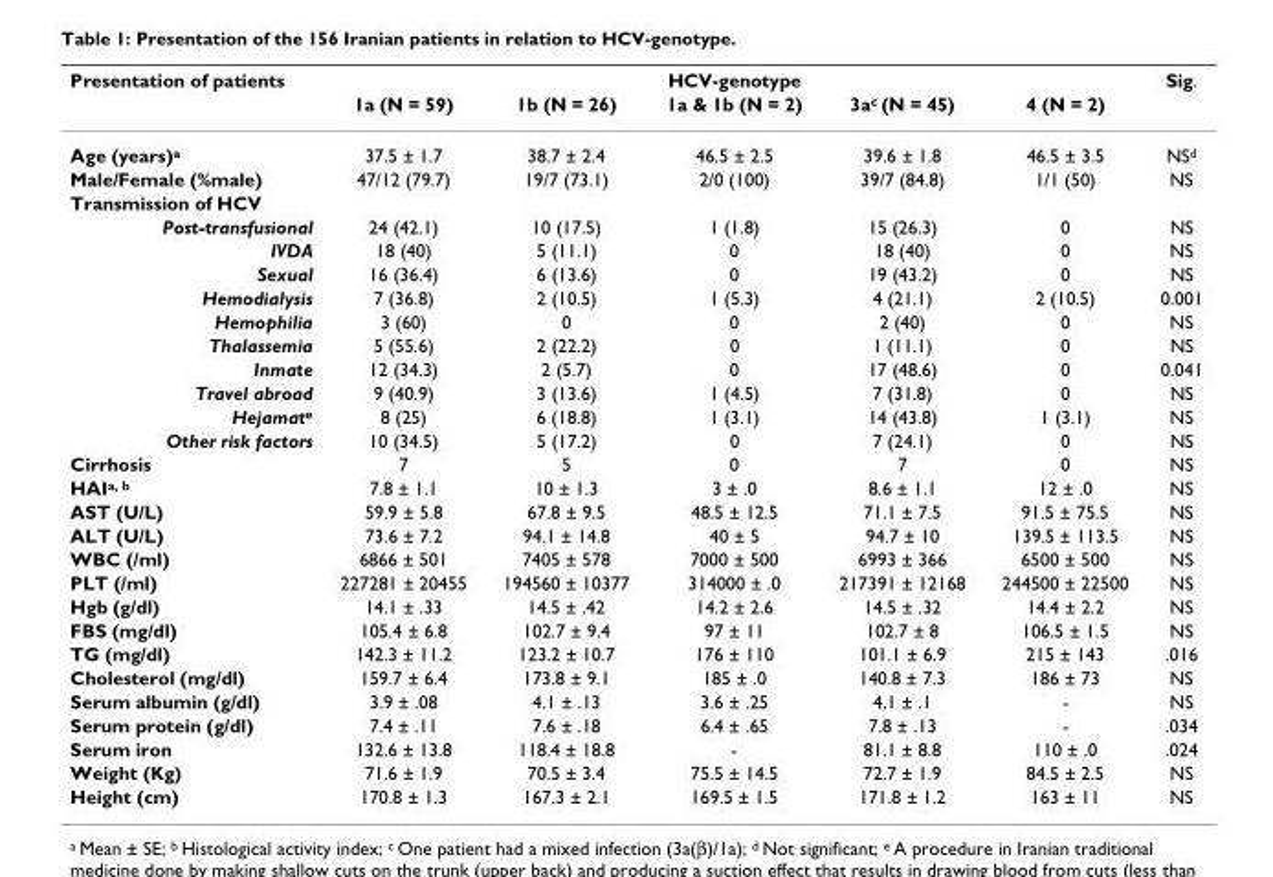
<table><thead><tr><td rowspan="2">Presentation of patients</td><td colspan="5">HCV-genotype</td><td rowspan="2">Sig.</td></tr><tr><td>1a (N = 59)</td><td>1b (N = 26)</td><td>1a &amp; 1b (N = 2)</td><td>3ac (N = 45)</td><td>4 (N = 2)</td></tr></thead><tbody><tr><td>Age (years)<sup>a</sup></td><td>37.5 ± 1.7</td><td>38.7 ± 2.4</td><td>46.5 ± 2.5</td><td>39.6 ± 1.8</td><td>46.5 ± 3.5</td><td>NS<sup>d</sup></td></tr><tr><td>Male/Female (%male)</td><td>47/12 (79.7)</td><td>19/7 (73.1)</td><td>2/0 (100)</td><td>39/7 (84.8)</td><td>1/1 (50)</td><td>NS</td></tr><tr><td colspan="7">Transmission of HCV</td></tr><tr><td>Post-transfusional</td><td>24 (42.1)</td><td>10 (17.5)</td><td>1 (1.8)</td><td>15 (26.3)</td><td>0</td><td>NS</td></tr><tr><td>IVDA</td><td>18 (40)</td><td>5 (11.1)</td><td>0</td><td>18 (40)</td><td>0</td><td>NS</td></tr><tr><td>Sexual</td><td>16 (36.4)</td><td>6 (13.6)</td><td>0</td><td>19 (43.2)</td><td>0</td><td>NS</td></tr><tr><td>Hemodialysis</td><td>7 (36.8)</td><td>2 (10.5)</td><td>1 (5.3)</td><td>4 (21.1)</td><td>2 (10.5)</td><td>0.001</td></tr><tr><td>Hemophilia</td><td>3 (60)</td><td>0</td><td>0</td><td>2 (40)</td><td>0</td><td>NS</td></tr><tr><td>Thalassemia</td><td>5 (55.6)</td><td>2 (22.2)</td><td>0</td><td>1 (11.1)</td><td>0</td><td>NS</td></tr><tr><td>Inmate</td><td>12 (34.3)</td><td>2 (5.7)</td><td>0</td><td>17 (48.6)</td><td>0</td><td>0.041</td></tr><tr><td>Travel abroad</td><td>9 (40.9)</td><td>3 (13.6)</td><td>1 (4.5)</td><td>7 (31.8)</td><td>0</td><td>NS</td></tr><tr><td>Hejamate</td><td>8 (25)</td><td>6 (18.8)</td><td>1 (3.1)</td><td>14 (43.8)</td><td>1 (3.1)</td><td>NS</td></tr><tr><td>Other risk factors</td><td>10 (34.5)</td><td>5 (17.2)</td><td>0</td><td>7 (24.1)</td><td>0</td><td>NS</td></tr><tr><td>Cirrhosis</td><td>7</td><td>5</td><td>0</td><td>7</td><td>0</td><td>NS</td></tr><tr><td>HAI<sup>a, b</sup></td><td>7.8 ± 1.1</td><td>10 ± 1.3</td><td>3 ± .0</td><td>8.6 ± 1.1</td><td>12 ± .0</td><td>NS</td></tr><tr><td>AST (U/L)</td><td>59.9 ± 5.8</td><td>67.8 ± 9.5</td><td>48.5 ± 12.5</td><td>71.1 ± 7.5</td><td>91.5 ± 75.5</td><td>NS</td></tr><tr><td>ALT (U/L)</td><td>73.6 ± 7.2</td><td>94.1 ± 14.8</td><td>40 ± 5</td><td>94.7 ± 10</td><td>139.5 ± 113.5</td><td>NS</td></tr><tr><td>WBC (/ml)</td><td>6866 ± 501</td><td>7405 ± 578</td><td>7000 ± 500</td><td>6993 ± 366</td><td>6500 ± 500</td><td>NS</td></tr><tr><td>PLT (/ml)</td><td>227281 ± 20455</td><td>194560 ± 10377</td><td>314000 ± .0</td><td>217391 ± 12168</td><td>244500 ± 22500</td><td>NS</td></tr><tr><td>Hgb (g/dl)</td><td>14.1 ± .33</td><td>14.5 ± .42</td><td>14.2 ± 2.6</td><td>14.5 ± .32</td><td>14.4 ± 2.2</td><td>NS</td></tr><tr><td>FBS (mg/dl)</td><td>105.4 ± 6.8</td><td>102.7 ± 9.4</td><td>97 ± 11</td><td>102.7 ± 8</td><td>106.5 ± 1.5</td><td>NS</td></tr><tr><td>TG (mg/dl)</td><td>142.3 ± 11.2</td><td>123.2 ± 10.7</td><td>176 ± 110</td><td>101.1 ± 6.9</td><td>215 ± 143</td><td>.016</td></tr><tr><td>Cholesterol (mg/dl)</td><td>159.7 ± 6.4</td><td>173.8 ± 9.1</td><td>185 ± .0</td><td>140.8 ± 7.3</td><td>186 ± 73</td><td>NS</td></tr><tr><td>Serum albumin (g/dl)</td><td>3.9 ± .08</td><td>4.1 ± .13</td><td>3.6 ± .25</td><td>4.1 ± .1</td><td>-</td><td>NS</td></tr><tr><td>Serum protein (g/dl)</td><td>7.4 ± .11</td><td>7.6 ± .18</td><td>6.4 ± .65</td><td>7.8 ± .13</td><td>-</td><td>.034</td></tr><tr><td>Serum iron</td><td>132.6 ± 13.8</td><td>118.4 ± 18.8</td><td>-</td><td>81.1 ± 8.8</td><td>110 ± .0</td><td>.024</td></tr><tr><td>Weight (Kg)</td><td>71.6 ± 1.9</td><td>70.5 ± 3.4</td><td>75.5 ± 14.5</td><td>72.7 ± 1.9</td><td>84.5 ± 2.5</td><td>NS</td></tr><tr><td>Height (cm)</td><td>170.8 ± 1.3</td><td>167.3 ± 2.1</td><td>169.5 ± 1.5</td><td>171.8 ± 1.2</td><td>163 ± 11</td><td>NS</td></tr></tbody></table>